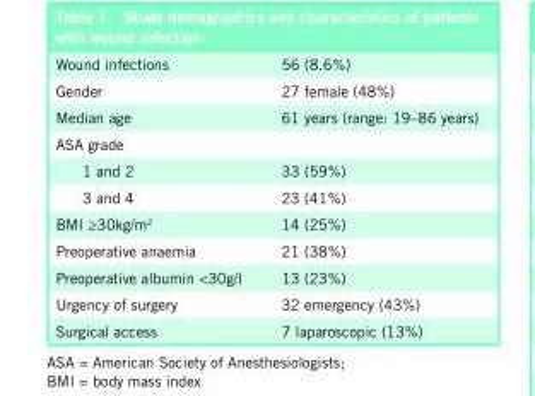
<table><tbody><tr><td>Wound infections</td><td>56 (8.6%)</td></tr><tr><td>Gender</td><td>27 female (48%)</td></tr><tr><td>Median age</td><td>61 years (range: 19–86 years)</td></tr><tr><td colspan="2">ASA grade</td></tr><tr><td>1 and 2</td><td>33 (59%)</td></tr><tr><td>3 and 4</td><td>23 (41%)</td></tr><tr><td>BMI ≥30kg/m<sup>2</sup></td><td>14 (25%)</td></tr><tr><td>Preoperative anaemia</td><td>21 (38%)</td></tr><tr><td>Preoperative albumin &lt;30g/l</td><td>13 (23%)</td></tr><tr><td>Urgency of surgery</td><td>32 emergency (43%)</td></tr><tr><td>Surgical access</td><td>7 laparoscopic (13%)</td></tr></tbody></table>